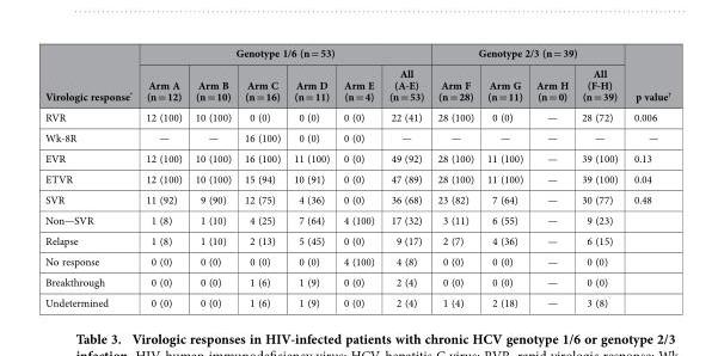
<table><thead><tr><td rowspan="2">Virologic response*</td><td colspan="6">Genotype 1/6 (n = 53)</td><td colspan="4">Genotype 2/3 (n = 39)</td><td rowspan="2">p value†</td></tr><tr><td>Arm A (n = 12)</td><td>Arm B (n = 10)</td><td>Arm C (n = 16)</td><td>Arm D (n = 11)</td><td>Arm E (n = 4)</td><td>All (A-E) (n = 53)</td><td>Arm F (n = 28)</td><td>Arm G (n = 11)</td><td>Arm H (n = 0)</td><td>All (F-H) (n = 39)</td></tr></thead><tbody><tr><td>RVR</td><td>12 (100)</td><td>10 (100)</td><td>0 (0)</td><td>0 (0)</td><td>0 (0)</td><td>22 (41)</td><td>28 (100)</td><td>0 (0)</td><td>—</td><td>28 (72)</td><td>0.006</td></tr><tr><td>Wk-8R</td><td>—</td><td>—</td><td>16 (100)</td><td>0 (0)</td><td>0 (0)</td><td>—</td><td>—</td><td>—</td><td>—</td><td>—</td><td>—</td></tr><tr><td>EVR</td><td>12 (100)</td><td>10 (100)</td><td>16 (100)</td><td>11 (100)</td><td>0 (0)</td><td>49 (92)</td><td>28 (100)</td><td>11 (100)</td><td>—</td><td>39 (100)</td><td>0.13</td></tr><tr><td>ETVR</td><td>12 (100)</td><td>10 (100)</td><td>15 (94)</td><td>10 (91)</td><td>0 (0)</td><td>47 (89)</td><td>28 (100)</td><td>11 (100)</td><td>—</td><td>39 (100)</td><td>0.04</td></tr><tr><td>SVR</td><td>11 (92)</td><td>9 (90)</td><td>12 (75)</td><td>4 (36)</td><td>0 (0)</td><td>36 (68)</td><td>23 (82)</td><td>7 (64)</td><td>—</td><td>30 (77)</td><td>0.48</td></tr><tr><td>Non—SVR</td><td>1 (8)</td><td>1 (10)</td><td>4 (25)</td><td>7 (64)</td><td>4 (100)</td><td>17 (32)</td><td>3 (11)</td><td>6 (55)</td><td>—</td><td>9 (23)</td><td></td></tr><tr><td>Relapse</td><td>1 (8)</td><td>1 (10)</td><td>2 (13)</td><td>5 (45)</td><td>0 (0)</td><td>9 (17)</td><td>2 (7)</td><td>4 (36)</td><td>—</td><td>6 (15)</td><td></td></tr><tr><td>No response</td><td>0 (0)</td><td>0 (0)</td><td>0 (0)</td><td>0 (0)</td><td>4 (100)</td><td>4 (8)</td><td>0 (0)</td><td>0 (0)</td><td>—</td><td>0 (0)</td><td></td></tr><tr><td>Breakthrough</td><td>0 (0)</td><td>0 (0)</td><td>1 (6)</td><td>1 (9)</td><td>0 (0)</td><td>2 (4)</td><td>0 (0)</td><td>0 (0)</td><td>—</td><td>0 (0)</td><td></td></tr><tr><td>Undetermined</td><td>0 (0)</td><td>0 (0)</td><td>1 (6)</td><td>1 (9)</td><td>0 (0)</td><td>2 (4)</td><td>1 (4)</td><td>2 (18)</td><td>—</td><td>3 (8)</td><td></td></tr></tbody></table>